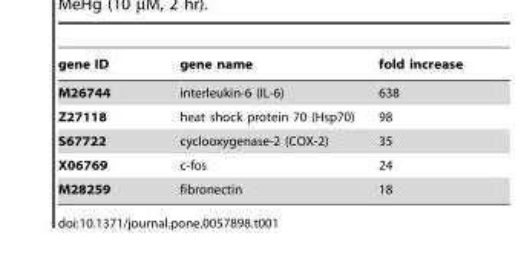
<table><thead><tr><td>gene ID</td><td>gene name</td><td>fold increase</td></tr></thead><tbody><tr><td>M26744</td><td>interleukin-6 (IL-6)</td><td>638</td></tr><tr><td>Z27118</td><td>heat shock protein 70 (Hsp70)</td><td>98</td></tr><tr><td>S67722</td><td>cyclooxygenase-2 (COX-2)</td><td>35</td></tr><tr><td>X06769</td><td>c-fos</td><td>24</td></tr><tr><td>M28259</td><td>fibronectin</td><td>18</td></tr></tbody></table>